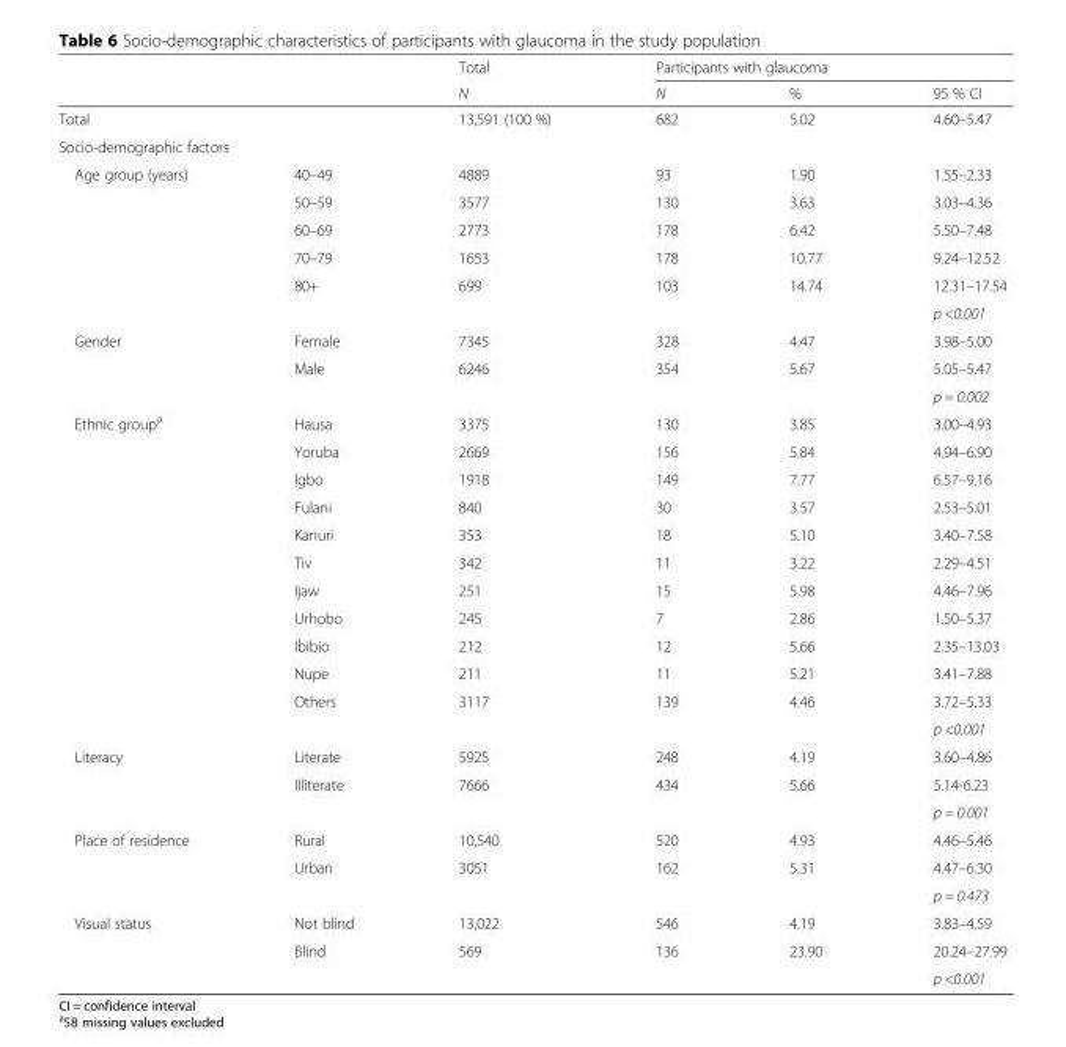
<table><thead><tr><td rowspan="2"></td><td rowspan="2"></td><td rowspan="2">Total N</td><td colspan="3">Participants with glaucoma</td></tr><tr><td>N</td><td>%</td><td>95 % CI</td></tr></thead><tbody><tr><td>Total</td><td></td><td>13,591 (100 %)</td><td>682</td><td>5.02</td><td>4.60–5.47</td></tr><tr><td colspan="6">Socio-demographic factors</td></tr><tr><td rowspan="6">Age group (years)</td><td>40–49</td><td>4889</td><td>93</td><td>1.90</td><td>1.55–2.33</td></tr><tr><td>50–59</td><td>3577</td><td>130</td><td>3.63</td><td>3.03–4.36</td></tr><tr><td>60–69</td><td>2773</td><td>178</td><td>6.42</td><td>5.50–7.48</td></tr><tr><td>70–79</td><td>1653</td><td>178</td><td>10.77</td><td>9.24–12.52</td></tr><tr><td>80+</td><td>699</td><td>103</td><td>14.74</td><td>12.31–17.54</td></tr><tr><td></td><td></td><td></td><td></td><td>p &lt;0.001</td></tr><tr><td rowspan="3">Gender</td><td>Female</td><td>7345</td><td>328</td><td>4.47</td><td>3.98–5.00</td></tr><tr><td>Male</td><td>6246</td><td>354</td><td>5.67</td><td>5.05–5.47</td></tr><tr><td></td><td></td><td></td><td></td><td>p = 0.002</td></tr><tr><td rowspan="12">Ethnic group<sup>a</sup></td><td>Hausa</td><td>3375</td><td>130</td><td>3.85</td><td>3.00–4.93</td></tr><tr><td>Yoruba</td><td>2669</td><td>156</td><td>5.84</td><td>4.94–6.90</td></tr><tr><td>Igbo</td><td>1918</td><td>149</td><td>7.77</td><td>6.57–9.16</td></tr><tr><td>Fulani</td><td>840</td><td>30</td><td>3.57</td><td>2.53–5.01</td></tr><tr><td>Kanuri</td><td>353</td><td>18</td><td>5.10</td><td>3.40–7.58</td></tr><tr><td>Tiv</td><td>342</td><td>11</td><td>3.22</td><td>2.29–4.51</td></tr><tr><td>Ijaw</td><td>251</td><td>15</td><td>5.98</td><td>4.46–7.96</td></tr><tr><td>Urhobo</td><td>245</td><td>7</td><td>2.86</td><td>1.50–5.37</td></tr><tr><td>Ibibio</td><td>212</td><td>12</td><td>5.66</td><td>2.35–13.03</td></tr><tr><td>Nupe</td><td>211</td><td>11</td><td>5.21</td><td>3.41–7.88</td></tr><tr><td>Others</td><td>3117</td><td>139</td><td>4.46</td><td>3.72–5.33</td></tr><tr><td></td><td></td><td></td><td></td><td>p &lt;0.001</td></tr><tr><td rowspan="3">Literacy</td><td>Literate</td><td>5925</td><td>248</td><td>4.19</td><td>3.60–4.86</td></tr><tr><td>Illiterate</td><td>7666</td><td>434</td><td>5.66</td><td>5.14-6.23</td></tr><tr><td></td><td></td><td></td><td></td><td>p = 0.001</td></tr><tr><td rowspan="3">Place of residence</td><td>Rural</td><td>10,540</td><td>520</td><td>4.93</td><td>4.46–5.46</td></tr><tr><td>Urban</td><td>3051</td><td>162</td><td>5.31</td><td>4.47–6.30</td></tr><tr><td></td><td></td><td></td><td></td><td>p = 0.473</td></tr><tr><td rowspan="3">Visual status</td><td>Not blind</td><td>13,022</td><td>546</td><td>4.19</td><td>3.83–4.59</td></tr><tr><td>Blind</td><td>569</td><td>136</td><td>23.90</td><td>20.24–27.99</td></tr><tr><td></td><td></td><td></td><td></td><td>p &lt;0.001</td></tr></tbody></table>